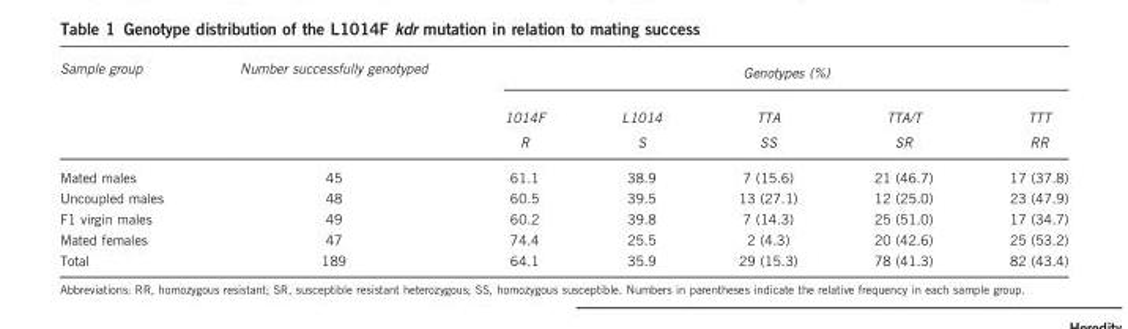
<table><thead><tr><td rowspan="3">Sample group</td><td rowspan="3">Number successfully genotyped</td><td colspan="5">Genotypes (%)</td></tr><tr><td rowspan="2">1014F R</td><td rowspan="2">L1014 S</td><td rowspan="2">TTA SS</td><td rowspan="2">TTA/T SR</td><td rowspan="2">TTT RR</td></tr><tr></tr></thead><tbody><tr><td>Mated males</td><td>45</td><td>61.1</td><td>38.9</td><td>7 (15.6)</td><td>21 (46.7)</td><td>17 (37.8)</td></tr><tr><td>Uncoupled males</td><td>48</td><td>60.5</td><td>39.5</td><td>13 (27.1)</td><td>12 (25.0)</td><td>23 (47.9)</td></tr><tr><td>F1 virgin males</td><td>49</td><td>60.2</td><td>39.8</td><td>7 (14.3)</td><td>25 (51.0)</td><td>17 (34.7)</td></tr><tr><td>Mated females</td><td>47</td><td>74.4</td><td>25.5</td><td>2 (4.3)</td><td>20 (42.6)</td><td>25 (53.2)</td></tr><tr><td>Total</td><td>189</td><td>64.1</td><td>35.9</td><td>29 (15.3)</td><td>78 (41.3)</td><td>82 (43.4)</td></tr></tbody></table>